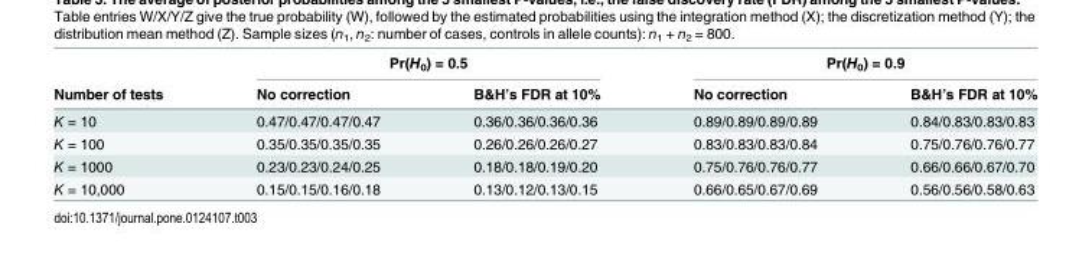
<table><thead><tr><td rowspan="2">Number of tests</td><td colspan="2">Pr(H<sub>0</sub>) = 0.5</td><td colspan="2">Pr(H<sub>0</sub>) = 0.9</td></tr><tr><td>No correction</td><td>B&amp;H’s FDR at 10%</td><td>No correction</td><td>B&amp;H’s FDR at 10%</td></tr></thead><tbody><tr><td>K = 10</td><td>0.47/0.47/0.47/0.47</td><td>0.36/0.36/0.36/0.36</td><td>0.89/0.89/0.89/0.89</td><td>0.84/0.83/0.83/0.83</td></tr><tr><td>K = 100</td><td>0.35/0.35/0.35/0.35</td><td>0.26/0.26/0.26/0.27</td><td>0.83/0.83/0.83/0.84</td><td>0.75/0.76/0.76/0.77</td></tr><tr><td>K = 1000</td><td>0.23/0.23/0.24/0.25</td><td>0.18/0.18/0.19/0.20</td><td>0.75/0.76/0.76/0.77</td><td>0.66/0.66/0.67/0.70</td></tr><tr><td>K = 10,000</td><td>0.15/0.15/0.16/0.18</td><td>0.13/0.12/0.13/0.15</td><td>0.66/0.65/0.67/0.69</td><td>0.56/0.56/0.58/0.63</td></tr></tbody></table>